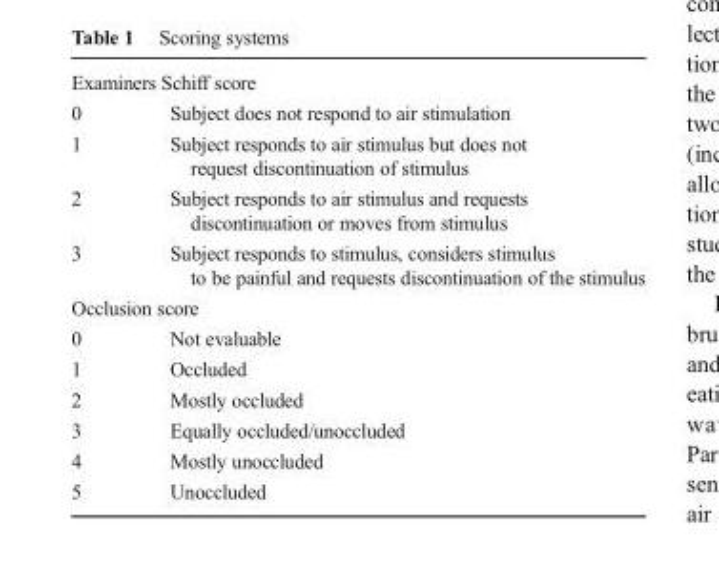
<table><tbody><tr><td colspan="2">Examiners Schiff score</td></tr><tr><td>0</td><td>Subject does not respond to air stimulation</td></tr><tr><td>1</td><td>Subject responds to air stimulus but does not request discontinuation of stimulus</td></tr><tr><td>2</td><td>Subject responds to air stimulus and requests discontinuation or moves from stimulus</td></tr><tr><td>3</td><td>Subject responds to stimulus, considers stimulus to be painful and requests discontinuation of the stimulus</td></tr><tr><td colspan="2">Occlusion score</td></tr><tr><td>0</td><td>Not evaluable</td></tr><tr><td>1</td><td>Occluded</td></tr><tr><td>2</td><td>Mostly occluded</td></tr><tr><td>3</td><td>Equally occluded/unoccluded</td></tr><tr><td>4</td><td>Mostly unoccluded</td></tr><tr><td>5</td><td>Unoccluded</td></tr></tbody></table>